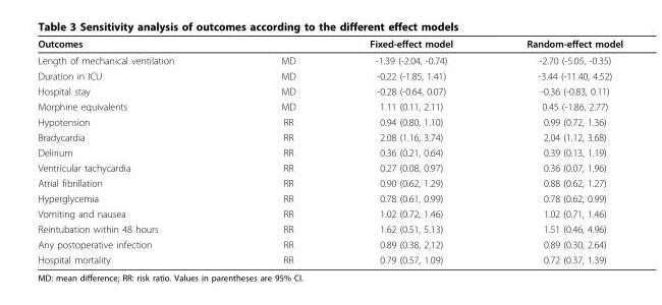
<table><thead><tr><td colspan="2">Outcomes</td><td rowspan="2">Fixed-effect model -1.39 (-2.04, -0.74)</td><td rowspan="2">Random-effect model -2.70 (-5.05, -0.35)</td></tr><tr><td>Length of mechanical ventilation</td><td>MD</td></tr></thead><tbody><tr><td>Duration in ICU</td><td>MD</td><td>-0.22 (-1.85, 1.41)</td><td>-3.44 (-11.40, 4.52)</td></tr><tr><td>Hospital stay</td><td>MD</td><td>-0.28 (-0.64, 0.07)</td><td>-0.36 (-0.83, 0.11)</td></tr><tr><td>Morphine equivalents</td><td>MD</td><td>1.11 (0.11, 2.11)</td><td>0.45 (-1.86, 2.77)</td></tr><tr><td>Hypotension</td><td>RR</td><td>0.94 (0.80, 1.10)</td><td>0.99 (0.72, 1.36)</td></tr><tr><td>Bradycardia</td><td>RR</td><td>2.08 (1.16, 3.74)</td><td>2.04 (1.12, 3.68)</td></tr><tr><td>Delirium</td><td>RR</td><td>0.36 (0.21, 0.64)</td><td>0.39 (0.13, 1.19)</td></tr><tr><td>Ventricular tachycardia</td><td>RR</td><td>0.27 (0.08, 0.97)</td><td>0.36 (0.07, 1.96)</td></tr><tr><td>Atrial fibrillation</td><td>RR</td><td>0.90 (0.62, 1.29)</td><td>0.88 (0.62, 1.27)</td></tr><tr><td>Hyperglycemia</td><td>RR</td><td>0.78 (0.61, 0.99)</td><td>0.78 (0.62, 0.99)</td></tr><tr><td>Vomiting and nausea</td><td>RR</td><td>1.02 (0.72, 1.46)</td><td>1.02 (0.71, 1.46)</td></tr><tr><td>Reintubation within 48 hours</td><td>RR</td><td>1.62 (0.51, 5.13)</td><td>1.51 (0.46, 4.96)</td></tr><tr><td>Any postoperative infection</td><td>RR</td><td>0.89 (0.38, 2.12)</td><td>0.89 (0.30, 2.64)</td></tr><tr><td>Hospital mortality</td><td>RR</td><td>0.79 (0.57, 1.09)</td><td>0.72 (0.37, 1.39)</td></tr></tbody></table>